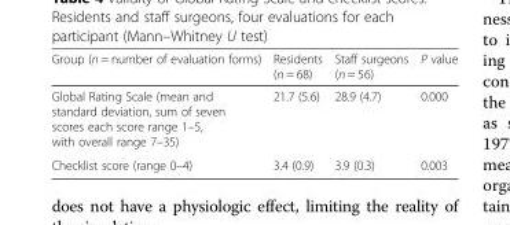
<table><thead><tr><td>Group (n = number of evaluation forms)</td><td>Residents (n = 68)</td><td>Staff surgeons (n = 56)</td><td>P value</td></tr></thead><tbody><tr><td>Global Rating Scale (mean and standard deviation, sum of seven scores each score range 1–5, with overall range 7–35)</td><td>21.7 (5.6)</td><td>28.9 (4.7)</td><td>0.000</td></tr><tr><td>Checklist score (range 0–4)</td><td>3.4 (0.9)</td><td>3.9 (0.3)</td><td>0.003</td></tr></tbody></table>